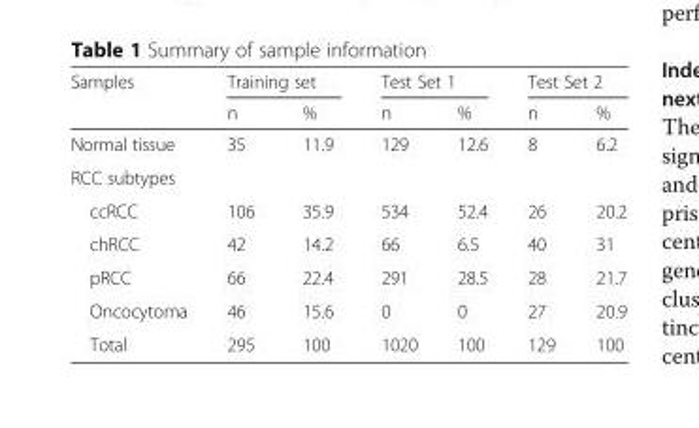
<table><thead><tr><td rowspan="2">Samples</td><td colspan="2">Training set</td><td colspan="2">Test Set 1</td><td colspan="2">Test Set 2</td></tr><tr><td>n</td><td>%</td><td>n</td><td>%</td><td>n</td><td>%</td></tr></thead><tbody><tr><td>Normal tissue</td><td>35</td><td>11.9</td><td>129</td><td>12.6</td><td>8</td><td>6.2</td></tr><tr><td colspan="7">RCC subtypes</td></tr><tr><td>ccRCC</td><td>106</td><td>35.9</td><td>534</td><td>52.4</td><td>26</td><td>20.2</td></tr><tr><td>chRCC</td><td>42</td><td>14.2</td><td>66</td><td>6.5</td><td>40</td><td>31</td></tr><tr><td>pRCC</td><td>66</td><td>22.4</td><td>291</td><td>28.5</td><td>28</td><td>21.7</td></tr><tr><td>Oncocytoma</td><td>46</td><td>15.6</td><td>0</td><td>0</td><td>27</td><td>20.9</td></tr><tr><td>Total</td><td>295</td><td>100</td><td>1020</td><td>100</td><td>129</td><td>100</td></tr></tbody></table>